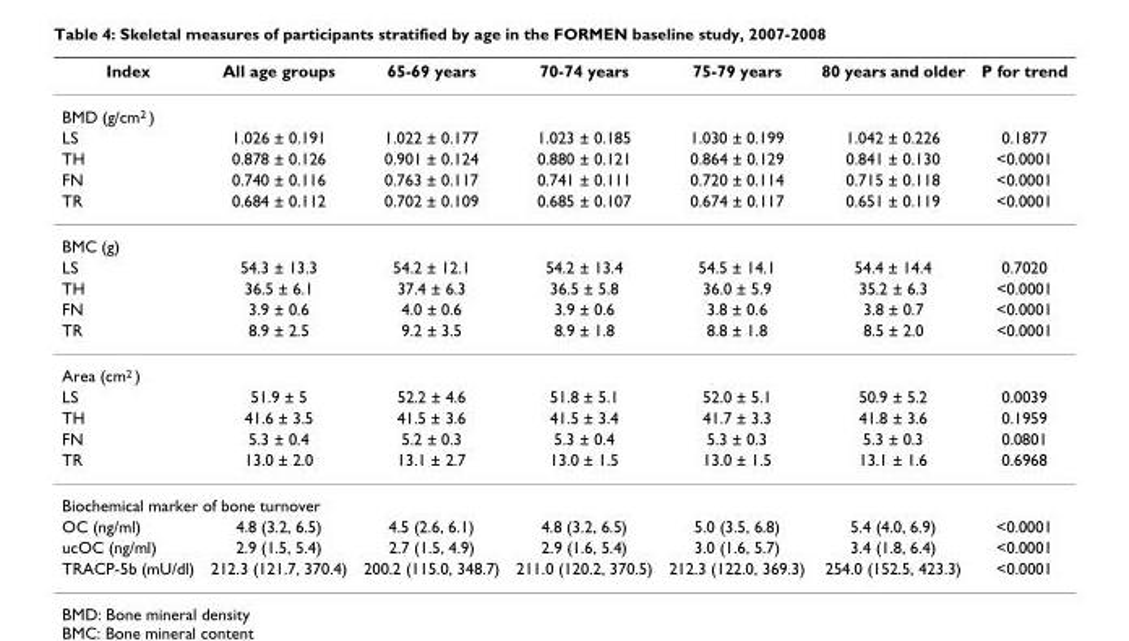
<table><thead><tr><td>Index</td><td>All age groups</td><td>65-69 years</td><td>70-74 years</td><td>75-79 years</td><td>80 years and older</td><td>P for trend</td></tr></thead><tbody><tr><td colspan="7">BMD (g/cm<sup>2</sup> )</td></tr><tr><td>LS</td><td>1.026 ± 0.191</td><td>1.022 ± 0.177</td><td>1.023 ± 0.185</td><td>1.030 ± 0.199</td><td>1.042 ± 0.226</td><td>0.1877</td></tr><tr><td>TH</td><td>0.878 ± 0.126</td><td>0.901 ± 0.124</td><td>0.880 ± 0.121</td><td>0.864 ± 0.129</td><td>0.841 ± 0.130</td><td>&lt;0.0001</td></tr><tr><td>FN</td><td>0.740 ± 0.116</td><td>0.763 ± 0.117</td><td>0.741 ± 0.111</td><td>0.720 ± 0.114</td><td>0.715 ± 0.118</td><td>&lt;0.0001</td></tr><tr><td>TR</td><td>0.684 ± 0.112</td><td>0.702 ± 0.109</td><td>0.685 ± 0.107</td><td>0.674 ± 0.117</td><td>0.651 ± 0.119</td><td>&lt;0.0001</td></tr><tr><td colspan="7">BMC (g)</td></tr><tr><td>LS</td><td>54.3 ± 13.3</td><td>54.2 ± 12.1</td><td>54.2 ± 13.4</td><td>54.5 ± 14.1</td><td>54.4 ± 14.4</td><td>0.7020</td></tr><tr><td>TH</td><td>36.5 ± 6.1</td><td>37.4 ± 6.3</td><td>36.5 ± 5.8</td><td>36.0 ± 5.9</td><td>35.2 ± 6.3</td><td>&lt;0.0001</td></tr><tr><td>FN</td><td>3.9 ± 0.6</td><td>4.0 ± 0.6</td><td>3.9 ± 0.6</td><td>3.8 ± 0.6</td><td>3.8 ± 0.7</td><td>&lt;0.0001</td></tr><tr><td>TR</td><td>8.9 ± 2.5</td><td>9.2 ± 3.5</td><td>8.9 ± 1.8</td><td>8.8 ± 1.8</td><td>8.5 ± 2.0</td><td>&lt;0.0001</td></tr><tr><td colspan="7">Area (cm<sup>2</sup> )</td></tr><tr><td>LS</td><td>51.9 ± 5</td><td>52.2 ± 4.6</td><td>51.8 ± 5.1</td><td>52.0 ± 5.1</td><td>50.9 ± 5.2</td><td>0.0039</td></tr><tr><td>TH</td><td>41.6 ± 3.5</td><td>41.5 ± 3.6</td><td>41.5 ± 3.4</td><td>41.7 ± 3.3</td><td>41.8 ± 3.6</td><td>0.1959</td></tr><tr><td>FN</td><td>5.3 ± 0.4</td><td>5.2 ± 0.3</td><td>5.3 ± 0.4</td><td>5.3 ± 0.3</td><td>5.3 ± 0.3</td><td>0.0801</td></tr><tr><td>TR</td><td>13.0 ± 2.0</td><td>13.1 ± 2.7</td><td>13.0 ± 1.5</td><td>13.0 ± 1.5</td><td>13.1 ± 1.6</td><td>0.6968</td></tr><tr><td colspan="7">Biochemical marker of bone turnover</td></tr><tr><td>OC (ng/ml)</td><td>4.8 (3.2, 6.5)</td><td>4.5 (2.6, 6.1)</td><td>4.8 (3.2, 6.5)</td><td>5.0 (3.5, 6.8)</td><td>5.4 (4.0, 6.9)</td><td>&lt;0.0001</td></tr><tr><td>ucOC (ng/ml)</td><td>2.9 (1.5, 5.4)</td><td>2.7 (1.5, 4.9)</td><td>2.9 (1.6, 5.4)</td><td>3.0 (1.6, 5.7)</td><td>3.4 (1.8, 6.4)</td><td>&lt;0.0001</td></tr><tr><td>TRACP-5b (mU/dl)</td><td>212.3 (121.7, 370.4)</td><td>200.2 (115.0, 348.7)</td><td>211.0 (120.2, 370.5)</td><td>212.3 (122.0, 369.3)</td><td>254.0 (152.5, 423.3)</td><td>&lt;0.0001</td></tr></tbody></table>